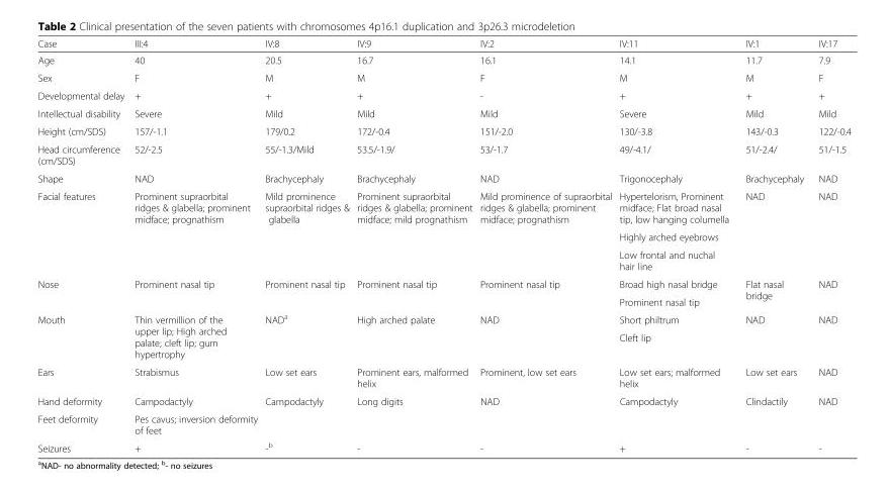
<table><thead><tr><td>Case</td><td>III:4</td><td>IV:8</td><td>IV:9</td><td>IV:2</td><td>IV:11</td><td>IV:1</td><td>IV:17</td></tr></thead><tbody><tr><td>Age</td><td>40</td><td>20.5</td><td>16.7</td><td>16.1</td><td>14.1</td><td>11.7</td><td>7.9</td></tr><tr><td>Sex</td><td>F</td><td>M</td><td>M</td><td>F</td><td>M</td><td>M</td><td>F</td></tr><tr><td>Developmental delay</td><td>+</td><td>+</td><td>+</td><td>-</td><td>+</td><td>+</td><td>+</td></tr><tr><td>Intellectual disability</td><td>Severe</td><td>Mild</td><td>Mild</td><td>Mild</td><td>Severe</td><td>Mild</td><td>Mild</td></tr><tr><td>Height (cm/SDS)</td><td>157/-1.1</td><td>179/0.2</td><td>172/-0.4</td><td>151/-2.0</td><td>130/-3.8</td><td>143/-0.3</td><td>122/-0.4</td></tr><tr><td>Head circumference (cm/SDS)</td><td>52/-2.5</td><td>55/-1.3/Mild</td><td>53.5/-1.9/</td><td>53/-1.7</td><td>49/-4.1/</td><td>51/-2.4/</td><td>51/-1.5</td></tr><tr><td>Shape</td><td>NAD</td><td>Brachycephaly</td><td>Brachycephaly</td><td>NAD</td><td>Trigonocephaly</td><td>Brachycephaly</td><td>NAD</td></tr><tr><td rowspan="3">Facial features</td><td rowspan="3">Prominent supraorbital ridges &amp; glabella; prominent midface; prognathism</td><td rowspan="3">Mild prominence supraorbital ridges &amp; glabella</td><td rowspan="3">Prominent supraorbital ridges &amp; glabella; prominent midface; mild prognathism</td><td rowspan="3">Mild prominence of supraorbital ridges &amp; glabella; prominent midface; prognathism</td><td>Hypertelorism, Prominent midface; Flat broad nasal tip, low hanging columella</td><td rowspan="3">NAD</td><td rowspan="3">NAD</td></tr><tr><td>Highly arched eyebrows</td></tr><tr><td>Low frontal and nuchal hair line</td></tr><tr><td rowspan="2">Nose</td><td rowspan="2">Prominent nasal tip</td><td rowspan="2">Prominent nasal tip</td><td rowspan="2">Prominent nasal tip</td><td rowspan="2">Prominent nasal tip</td><td>Broad high nasal bridge</td><td rowspan="2">Flat nasal bridge</td><td rowspan="2">NAD</td></tr><tr><td>Prominent nasal tip</td></tr><tr><td rowspan="2">Mouth</td><td rowspan="2">Thin vermillion of the upper lip; High arched palate; cleft lip; gum hypertrophy</td><td rowspan="2">NAD<sup>a</sup></td><td rowspan="2">High arched palate</td><td rowspan="2">NAD</td><td>Short philtrum</td><td rowspan="2">NAD</td><td rowspan="2">NAD</td></tr><tr><td>Cleft lip</td></tr><tr><td>Ears</td><td>Strabismus</td><td>Low set ears</td><td>Prominent ears, malformed helix</td><td>Prominent, low set ears</td><td>Low set ears; malformed helix</td><td>Low set ears</td><td>NAD</td></tr><tr><td>Hand deformity</td><td>Campodactyly</td><td rowspan="2">Campodactyly</td><td rowspan="2">Long digits</td><td rowspan="2">NAD</td><td rowspan="2">Campodactyly</td><td rowspan="2">Clindactily</td><td rowspan="2">NAD</td></tr><tr><td>Feet deformity</td><td>Pes cavus; inversion deformity of feet</td></tr><tr><td>Seizures</td><td>+</td><td>-<sup>b</sup></td><td>-</td><td>-</td><td>+</td><td>-</td><td>-</td></tr></tbody></table>